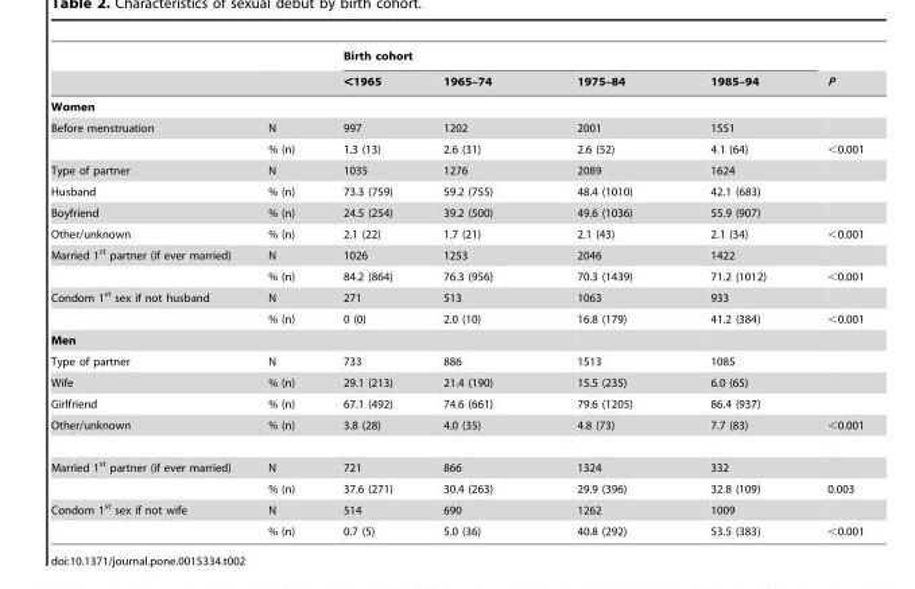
<table><thead><tr><td rowspan="2"></td><td rowspan="2"></td><td colspan="4">Birth cohort</td><td rowspan="2">P</td></tr><tr><td>&lt;1965</td><td>1965–74</td><td>1975–84</td><td>1985–94</td></tr></thead><tbody><tr><td colspan="7">Women</td></tr><tr><td rowspan="2">Before menstruation</td><td>N</td><td>997</td><td>1202</td><td>2001</td><td>1551</td><td></td></tr><tr><td>% (n)</td><td>1.3 (13)</td><td>2.6 (31)</td><td>2.6 (52)</td><td>4.1 (64)</td><td>&lt;0.001</td></tr><tr><td>Type of partner</td><td>N</td><td>1035</td><td>1276</td><td>2089</td><td>1624</td><td></td></tr><tr><td>Husband</td><td>% (n)</td><td>73.3 (759)</td><td>59.2 (755)</td><td>48.4 (1010)</td><td>42.1 (683)</td><td></td></tr><tr><td>Boyfriend</td><td>% (n)</td><td>24.5 (254)</td><td>39.2 (500)</td><td>49.6 (1036)</td><td>55.9 (907)</td><td></td></tr><tr><td>Other/unknown</td><td>% (n)</td><td>2.1 (22)</td><td>1.7 (21)</td><td>2.1 (43)</td><td>2.1 (34)</td><td>&lt;0.001</td></tr><tr><td rowspan="2">Married 1<sup>st</sup> partner (if ever married)</td><td>N</td><td>1026</td><td>1253</td><td>2046</td><td>1422</td><td></td></tr><tr><td>% (n)</td><td>84.2 (864)</td><td>76.3 (956)</td><td>70.3 (1439)</td><td>71.2 (1012)</td><td>&lt;0.001</td></tr><tr><td rowspan="2">Condom 1<sup>st</sup> sex if not husband</td><td>N</td><td>271</td><td>513</td><td>1063</td><td>933</td><td></td></tr><tr><td>% (n)</td><td>0 (0)</td><td>2.0 (10)</td><td>16.8 (179)</td><td>41.2 (384)</td><td>&lt;0.001</td></tr><tr><td colspan="7">Men</td></tr><tr><td>Type of partner</td><td>N</td><td>733</td><td>886</td><td>1513</td><td>1085</td><td></td></tr><tr><td>Wife</td><td>% (n)</td><td>29.1 (213)</td><td>21.4 (190)</td><td>15.5 (235)</td><td>6.0 (65)</td><td></td></tr><tr><td>Girlfriend</td><td>% (n)</td><td>67.1 (492)</td><td>74.6 (661)</td><td>79.6 (1205)</td><td>86.4 (937)</td><td></td></tr><tr><td>Other/unknown</td><td>% (n)</td><td>3.8 (28)</td><td>4.0 (35)</td><td>4.8 (73)</td><td>7.7 (83)</td><td>&lt;0.001</td></tr><tr><td rowspan="2">Married 1<sup>st</sup> partner (if ever married)</td><td>N</td><td>721</td><td>866</td><td>1324</td><td>332</td><td></td></tr><tr><td>% (n)</td><td>37.6 (271)</td><td>30.4 (263)</td><td>29.9 (396)</td><td>32.8 (109)</td><td>0.003</td></tr><tr><td rowspan="2">Condom 1<sup>st</sup> sex if not wife</td><td>N</td><td>514</td><td>690</td><td>1262</td><td>1009</td><td></td></tr><tr><td>% (n)</td><td>0.7 (5)</td><td>5.0 (36)</td><td>40.8 (292)</td><td>53.5 (383)</td><td>&lt;0.001</td></tr></tbody></table>